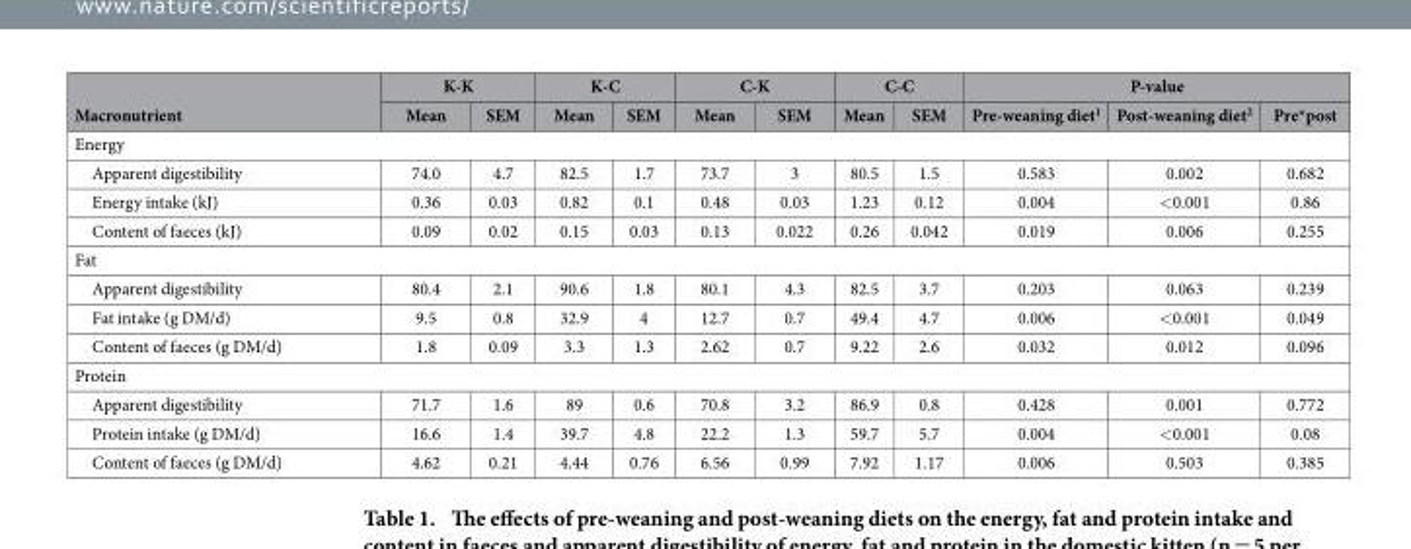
<table><thead><tr><td rowspan="2">Macronutrient</td><td colspan="2">K-K</td><td colspan="2">K-C</td><td colspan="2">C-K</td><td colspan="2">C-C</td><td colspan="3">P-value</td></tr><tr><td>Mean</td><td>SEM</td><td>Mean</td><td>SEM</td><td>Mean</td><td>SEM</td><td>Mean</td><td>SEM</td><td>Pre-weaning diet1</td><td>Post-weaning diet2</td><td>Pre*post</td></tr></thead><tbody><tr><td colspan="12">Energy</td></tr><tr><td>Apparent digestibility</td><td>74.0</td><td>4.7</td><td>82.5</td><td>1.7</td><td>73.7</td><td>3</td><td>80.5</td><td>1.5</td><td>0.583</td><td>0.002</td><td>0.682</td></tr><tr><td>Energy intake (kJ)</td><td>0.36</td><td>0.03</td><td>0.82</td><td>0.1</td><td>0.48</td><td>0.03</td><td>1.23</td><td>0.12</td><td>0.004</td><td>&lt;0.001</td><td>0.86</td></tr><tr><td>Content of faeces (kJ)</td><td>0.09</td><td>0.02</td><td>0.15</td><td>0.03</td><td>0.13</td><td>0.022</td><td>0.26</td><td>0.042</td><td>0.019</td><td>0.006</td><td>0.255</td></tr><tr><td colspan="12">Fat</td></tr><tr><td>Apparent digestibility</td><td>80.4</td><td>2.1</td><td>90.6</td><td>1.8</td><td>80.1</td><td>4.3</td><td>82.5</td><td>3.7</td><td>0.203</td><td>0.063</td><td>0.239</td></tr><tr><td>Fat intake (g DM/d)</td><td>9.5</td><td>0.8</td><td>32.9</td><td>4</td><td>12.7</td><td>0.7</td><td>49.4</td><td>4.7</td><td>0.006</td><td>&lt;0.001</td><td>0.049</td></tr><tr><td>Content of faeces (g DM/d)</td><td>1.8</td><td>0.09</td><td>3.3</td><td>1.3</td><td>2.62</td><td>0.7</td><td>9.22</td><td>2.6</td><td>0.032</td><td>0.012</td><td>0.096</td></tr><tr><td colspan="12">Protein</td></tr><tr><td>Apparent digestibility</td><td>71.7</td><td>1.6</td><td>89</td><td>0.6</td><td>70.8</td><td>3.2</td><td>86.9</td><td>0.8</td><td>0.428</td><td>0.001</td><td>0.772</td></tr><tr><td>Protein intake (g DM/d)</td><td>16.6</td><td>1.4</td><td>39.7</td><td>4.8</td><td>22.2</td><td>1.3</td><td>59.7</td><td>5.7</td><td>0.004</td><td>&lt;0.001</td><td>0.08</td></tr><tr><td>Content of faeces (g DM/d)</td><td>4.62</td><td>0.21</td><td>4.44</td><td>0.76</td><td>6.56</td><td>0.99</td><td>7.92</td><td>1.17</td><td>0.006</td><td>0.503</td><td>0.385</td></tr></tbody></table>